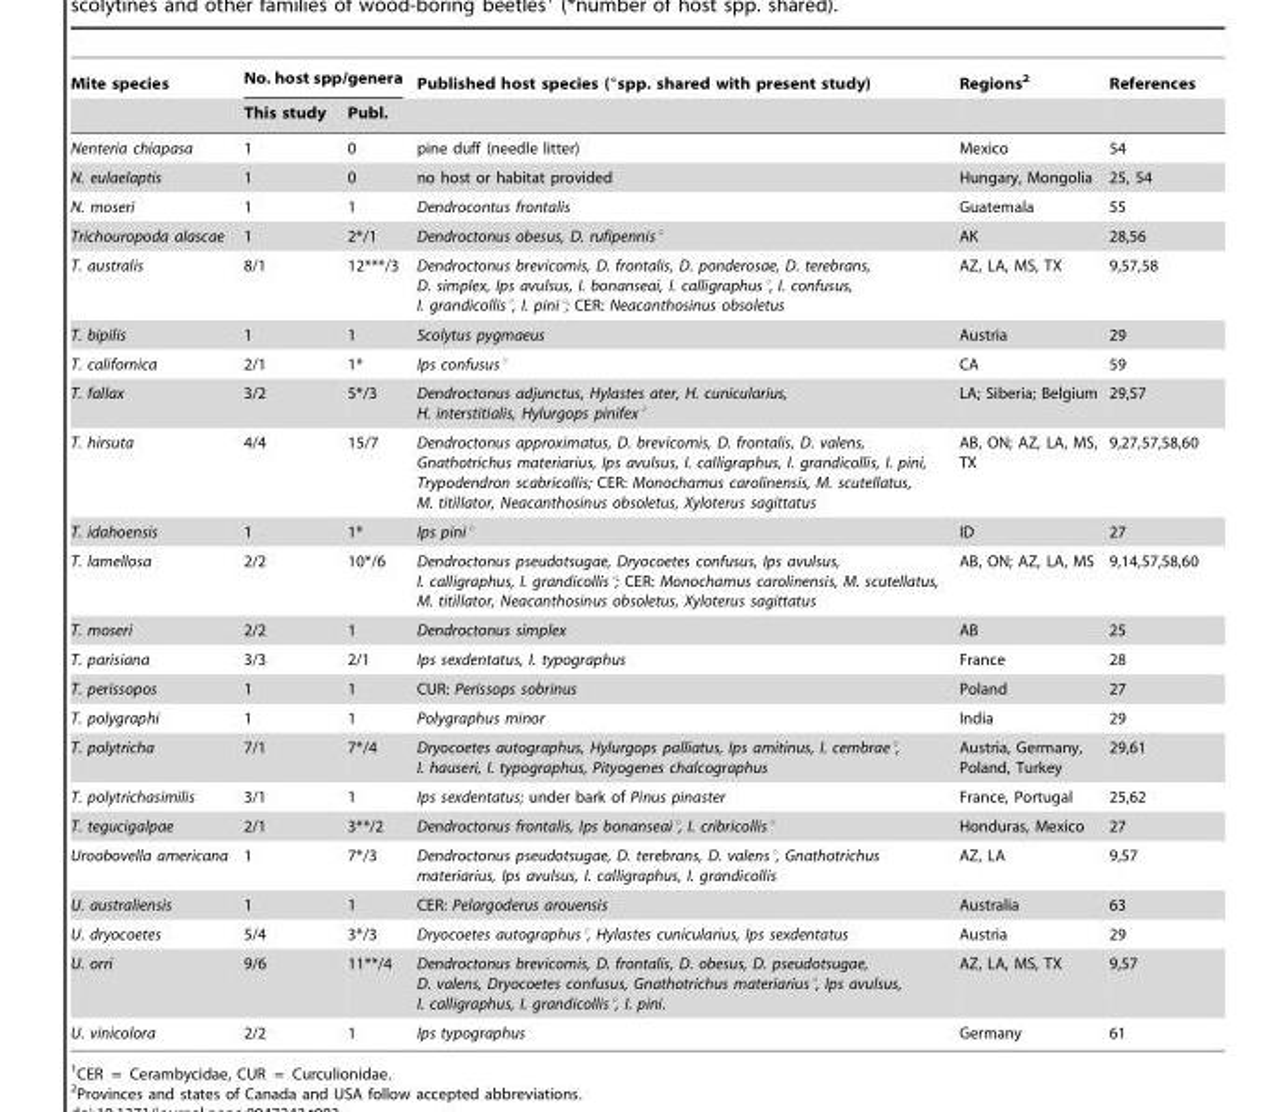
<table><thead><tr><td rowspan="2">Mite species</td><td colspan="2">No. host spp/genera</td><td rowspan="2">Published host species (°spp. shared with present study)</td><td rowspan="2">Regions<sup>2</sup></td><td rowspan="2">References</td></tr><tr><td>This study</td><td>Publ.</td></tr></thead><tbody><tr><td>Nenteria chiapasa</td><td>1</td><td>0</td><td>pine duff (needle litter)</td><td>Mexico</td><td>54</td></tr><tr><td>N. eulaelaptis</td><td>1</td><td>0</td><td>no host or habitat provided</td><td>Hungary, Mongolia</td><td>25, 54</td></tr><tr><td>N. moseri</td><td>1</td><td>1</td><td>Dendrocontus frontalis</td><td>Guatemala</td><td>55</td></tr><tr><td>Trichouropoda alascae</td><td>1</td><td>2*/1</td><td>Dendroctonus obesus, D. rufipennis°</td><td>AK</td><td>28,56</td></tr><tr><td>T. australis</td><td>8/1</td><td>12***/3</td><td>Dendroctonus brevicomis, D. frontalis, D. ponderosae, D. terebrans, D. simplex, Ips avulsus, I. bonanseai, I. calligraphus°, I. confusus, I. grandicollis°, I. pini°; CER: Neacanthosinus obsoletus</td><td>AZ, LA, MS, TX</td><td>9,57,58</td></tr><tr><td>T. bipilis</td><td>1</td><td>1</td><td>Scolytus pygmaeus</td><td>Austria</td><td>29</td></tr><tr><td>T. californica</td><td>2/1</td><td>1*</td><td>Ips confusus°</td><td>CA</td><td>59</td></tr><tr><td>T. fallax</td><td>3/2</td><td>5*/3</td><td>Dendroctonus adjunctus, Hylastes ater, H. cunicularius, H. interstitialis, Hylurgops pinifex°</td><td>LA; Siberia; Belgium</td><td>29,57</td></tr><tr><td>T. hirsuta</td><td>4/4</td><td>15/7</td><td>Dendroctonus approximatus, D. brevicomis, D. frontalis, D. valens, Gnathotrichus materiarius, Ips avulsus, I. calligraphus, I. grandicollis, I. pini, Trypodendron scabricollis; CER: Monochamus carolinensis, M. scutellatus, M. titillator, Neacanthosinus obsoletus, Xyloterus sagittatus</td><td>AB, ON; AZ, LA, MS, TX</td><td>9,27,57,58,60</td></tr><tr><td>T. idahoensis</td><td>1</td><td>1*</td><td>Ips pini°</td><td>ID</td><td>27</td></tr><tr><td>T. lamellosa</td><td>2/2</td><td>10*/6</td><td>Dendroctonus pseudotsugae, Dryocoetes confusus, Ips avulsus, I. calligraphus, I. grandicollis°; CER: Monochamus carolinensis, M. scutellatus, M. titillator, Neacanthosinus obsoletus, Xyloterus sagittatus</td><td>AB, ON; AZ, LA, MS</td><td>9,14,57,58,60</td></tr><tr><td>T. moseri</td><td>2/2</td><td>1</td><td>Dendroctonus simplex</td><td>AB</td><td>25</td></tr><tr><td>T. parisiana</td><td>3/3</td><td>2/1</td><td>Ips sexdentatus, I. typographus</td><td>France</td><td>28</td></tr><tr><td>T. perissopos</td><td>1</td><td>1</td><td>CUR: Perissops sobrinus</td><td>Poland</td><td>27</td></tr><tr><td>T. polygraphi</td><td>1</td><td>1</td><td>Polygraphus minor</td><td>India</td><td>29</td></tr><tr><td>T. polytricha</td><td>7/1</td><td>7*/4</td><td>Dryocoetes autographus, Hylurgops palliatus, Ips amitinus, I. cembrae°, I. hauseri, I. typographus, Pityogenes chalcographus</td><td>Austria, Germany, Poland, Turkey</td><td>29,61</td></tr><tr><td>T. polytrichasimilis</td><td>3/1</td><td>1</td><td>Ips sexdentatus; under bark of Pinus pinaster</td><td>France, Portugal</td><td>25,62</td></tr><tr><td>T. tegucigalpae</td><td>2/1</td><td>3**/2</td><td>Dendroctonus frontalis, Ips bonanseai°, I. cribricollis°</td><td>Honduras, Mexico</td><td>27</td></tr><tr><td>Uroobovella americana</td><td>1</td><td>7*/3</td><td>Dendroctonus pseudotsugae, D. terebrans, D. valens°, Gnathotrichus materiarius, Ips avulsus, I. calligraphus, I. grandicollis</td><td>AZ, LA</td><td>9,57</td></tr><tr><td>U. australiensis</td><td>1</td><td>1</td><td>CER: Pelargoderus arouensis</td><td>Australia</td><td>63</td></tr><tr><td>U. dryocoetes</td><td>5/4</td><td>3*/3</td><td>Dryocoetes autographus°, Hylastes cunicularius, Ips sexdentatus</td><td>Austria</td><td>29</td></tr><tr><td>U. orri</td><td>9/6</td><td>11**/4</td><td>Dendroctonus brevicomis, D. frontalis, D. obesus, D. pseudotsugae, D. valens, Dryocoetes confusus, Gnathotrichus materiarius°, Ips avulsus, I. calligraphus, I. grandicollis°, I. pini.</td><td>AZ, LA, MS, TX</td><td>9,57</td></tr><tr><td>U. vinicolora</td><td>2/2</td><td>1</td><td>Ips typographus</td><td>Germany</td><td>61</td></tr></tbody></table>